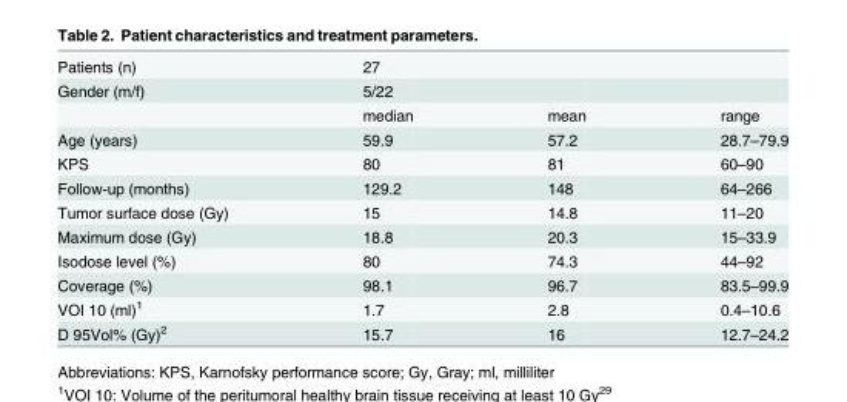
<table><tbody><tr><td>Patients (n)</td><td>27</td><td></td><td></td></tr><tr><td rowspan="2">Gender (m/f)</td><td>5/22</td><td></td><td></td></tr><tr><td>median</td><td>mean</td><td>range</td></tr><tr><td>Age (years)</td><td>59.9</td><td>57.2</td><td>28.7–79.9</td></tr><tr><td>KPS</td><td>80</td><td>81</td><td>60–90</td></tr><tr><td>Follow-up (months)</td><td>129.2</td><td>148</td><td>64–266</td></tr><tr><td>Tumor surface dose (Gy)</td><td>15</td><td>14.8</td><td>11–20</td></tr><tr><td>Maximum dose (Gy)</td><td>18.8</td><td>20.3</td><td>15–33.9</td></tr><tr><td>Isodose level (%)</td><td>80</td><td>74.3</td><td>44–92</td></tr><tr><td>Coverage (%)</td><td>98.1</td><td>96.7</td><td>83.5–99.9</td></tr><tr><td>VOI 10 (ml)<sup>1</sup></td><td>1.7</td><td>2.8</td><td>0.4–10.6</td></tr><tr><td>D 95Vol% (Gy)<sup>2</sup></td><td>15.7</td><td>16</td><td>12.7–24.2</td></tr></tbody></table>